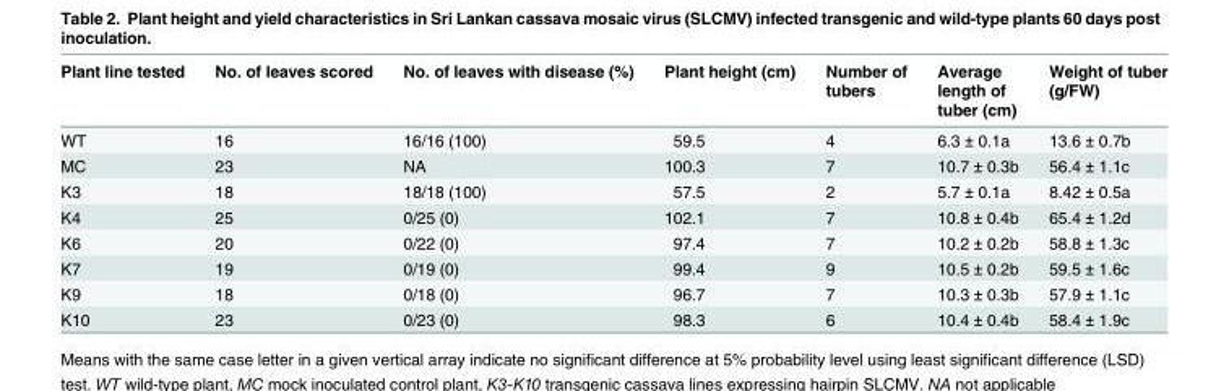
<table><thead><tr><td>Plant line tested</td><td>No. of leaves scored</td><td>No. of leaves with disease (%)</td><td>Plant height (cm)</td><td>Number of tubers</td><td>Average length of tuber (cm)</td><td>Weight of tuber (g/FW)</td></tr></thead><tbody><tr><td>WT</td><td>16</td><td>16/16 (100)</td><td>59.5</td><td>4</td><td>6.3 ± 0.1a</td><td>13.6 ± 0.7b</td></tr><tr><td>MC</td><td>23</td><td>NA</td><td>100.3</td><td>7</td><td>10.7 ± 0.3b</td><td>56.4 ± 1.1c</td></tr><tr><td>K3</td><td>18</td><td>18/18 (100)</td><td>57.5</td><td>2</td><td>5.7 ± 0.1a</td><td>8.42 ± 0.5a</td></tr><tr><td>K4</td><td>25</td><td>0/25 (0)</td><td>102.1</td><td>7</td><td>10.8 ± 0.4b</td><td>65.4 ± 1.2d</td></tr><tr><td>K6</td><td>20</td><td>0/22 (0)</td><td>97.4</td><td>7</td><td>10.2 ± 0.2b</td><td>58.8 ± 1.3c</td></tr><tr><td>K7</td><td>19</td><td>0/19 (0)</td><td>99.4</td><td>9</td><td>10.5 ± 0.2b</td><td>59.5 ± 1.6c</td></tr><tr><td>K9</td><td>18</td><td>0/18 (0)</td><td>96.7</td><td>7</td><td>10.3 ± 0.3b</td><td>57.9 ± 1.1c</td></tr><tr><td>K10</td><td>23</td><td>0/23 (0)</td><td>98.3</td><td>6</td><td>10.4 ± 0.4b</td><td>58.4 ± 1.9c</td></tr></tbody></table>